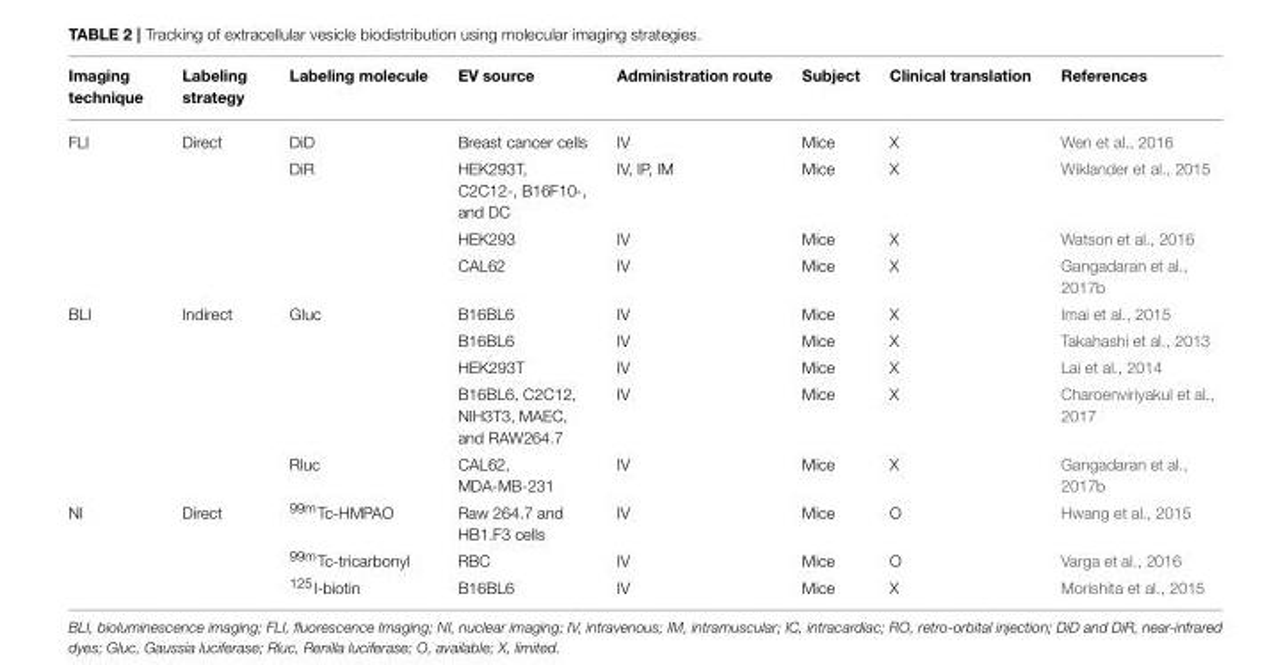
<table><thead><tr><td>Imaging technique</td><td>Labeling strategy</td><td>Labeling molecule</td><td>EV source</td><td>Administration route</td><td>Subject</td><td>Clinical translation</td><td>References</td></tr></thead><tbody><tr><td rowspan="4">FLI</td><td>Direct</td><td>DiD</td><td>Breast cancer cells</td><td>IV</td><td>Mice</td><td>X</td><td>Wen et al., 2016</td></tr><tr><td></td><td>DiR</td><td>HEK293T, C2C12-, B16F10-, and DC</td><td>IV, IP, IM</td><td>Mice</td><td>X</td><td>Wiklander et al., 2015</td></tr><tr><td></td><td></td><td>HEK293</td><td>IV</td><td>Mice</td><td>X</td><td>Watson et al., 2016</td></tr><tr><td></td><td></td><td>CAL62</td><td>IV</td><td>Mice</td><td>X</td><td>Gangadaran et al., 2017b</td></tr><tr><td rowspan="5">BLI</td><td>Indirect</td><td>Gluc</td><td>B16BL6</td><td>IV</td><td>Mice</td><td>X</td><td>Imai et al., 2015</td></tr><tr><td></td><td></td><td>B16BL6</td><td>IV</td><td>Mice</td><td>X</td><td>Takahashi et al., 2013</td></tr><tr><td></td><td></td><td>HEK293T</td><td>IV</td><td>Mice</td><td>X</td><td>Lai et al., 2014</td></tr><tr><td></td><td></td><td>B16BL6, C2C12, NIH3T3, MAEC, and RAW264.7</td><td>IV</td><td>Mice</td><td>X</td><td>Charoenviriyakul et al., 2017</td></tr><tr><td></td><td>Rluc</td><td>CAL62, MDA-MB-231</td><td>IV</td><td>Mice</td><td>X</td><td>Gangadaran et al., 2017b</td></tr><tr><td rowspan="3">NI</td><td>Direct</td><td><sup>99m</sup>Tc-HMPAO</td><td>Raw 264.7 and HB1.F3 cells</td><td>IV</td><td>Mice</td><td>O</td><td>Hwang et al., 2015</td></tr><tr><td></td><td><sup>99m</sup>Tc-tricarbonyl</td><td>RBC</td><td>IV</td><td>Mice</td><td>O</td><td>Varga et al., 2016</td></tr><tr><td></td><td><sup>125</sup>I-biotin</td><td>B16BL6</td><td>IV</td><td>Mice</td><td>X</td><td>Morishita et al., 2015</td></tr></tbody></table>